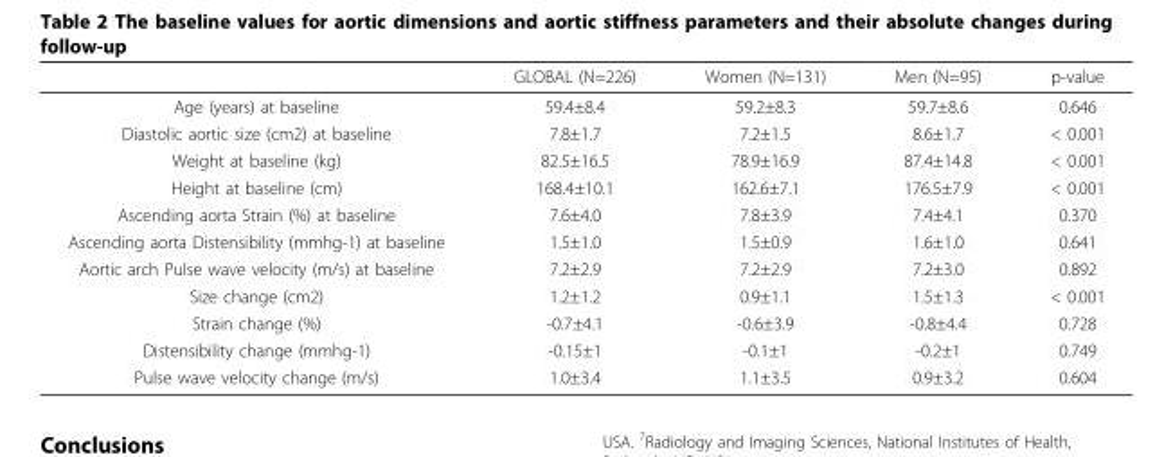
<table><thead><tr><td></td><td>GLOBAL (N=226)</td><td>Women (N=131)</td><td>Men (N=95)</td><td>p-value</td></tr></thead><tbody><tr><td>Age (years) at baseline</td><td>59.4±8.4</td><td>59.2±8.3</td><td>59.7±8.6</td><td>0.646</td></tr><tr><td>Diastolic aortic size (cm2) at baseline</td><td>7.8±1.7</td><td>7.2±1.5</td><td>8.6±1.7</td><td>&lt; 0.001</td></tr><tr><td>Weight at baseline (kg)</td><td>82.5±16.5</td><td>78.9±16.9</td><td>87.4±14.8</td><td>&lt; 0.001</td></tr><tr><td>Height at baseline (cm)</td><td>168.4±10.1</td><td>162.6±7.1</td><td>176.5±7.9</td><td>&lt; 0.001</td></tr><tr><td>Ascending aorta Strain (%) at baseline</td><td>7.6±4.0</td><td>7.8±3.9</td><td>7.4±4.1</td><td>0.370</td></tr><tr><td>Ascending aorta Distensibility (mmhg-1) at baseline</td><td>1.5±1.0</td><td>1.5±0.9</td><td>1.6±1.0</td><td>0.641</td></tr><tr><td>Aortic arch Pulse wave velocity (m/s) at baseline</td><td>7.2±2.9</td><td>7.2±2.9</td><td>7.2±3.0</td><td>0.892</td></tr><tr><td>Size change (cm2)</td><td>1.2±1.2</td><td>0.9±1.1</td><td>1.5±1.3</td><td>&lt; 0.001</td></tr><tr><td>Strain change (%)</td><td>-0.7±4.1</td><td>-0.6±3.9</td><td>-0.8±4.4</td><td>0.728</td></tr><tr><td>Distensibility change (mmhg-1)</td><td>-0.15±1</td><td>-0.1±1</td><td>-0.2±1</td><td>0.749</td></tr><tr><td>Pulse wave velocity change (m/s)</td><td>1.0±3.4</td><td>1.1±3.5</td><td>0.9±3.2</td><td>0.604</td></tr></tbody></table>